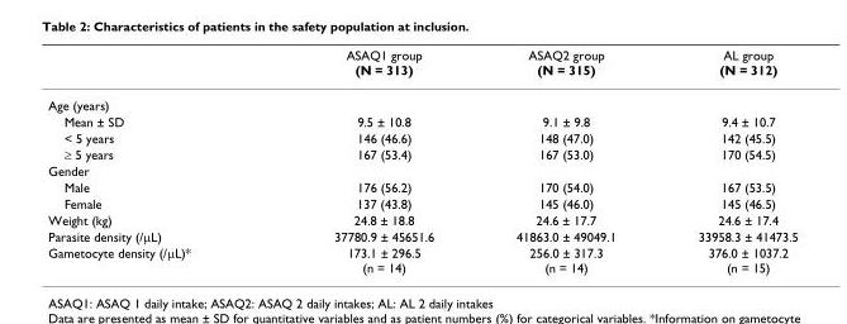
<table><thead><tr><td></td><td>ASAQ1 group (N = 313)</td><td>ASAQ2 group (N = 315)</td><td>AL group (N = 312)</td></tr></thead><tbody><tr><td colspan="4">Age (years)</td></tr><tr><td>Mean ± SD</td><td>9.5 ± 10.8</td><td>9.1 ± 9.8</td><td>9.4 ± 10.7</td></tr><tr><td>&lt; 5 years</td><td>146 (46.6)</td><td>148 (47.0)</td><td>142 (45.5)</td></tr><tr><td>≥ 5 years</td><td>167 (53.4)</td><td>167 (53.0)</td><td>170 (54.5)</td></tr><tr><td colspan="4">Gender</td></tr><tr><td>Male</td><td>176 (56.2)</td><td>170 (54.0)</td><td>167 (53.5)</td></tr><tr><td>Female</td><td>137 (43.8)</td><td>145 (46.0)</td><td>145 (46.5)</td></tr><tr><td>Weight (kg)</td><td>24.8 ± 18.8</td><td>24.6 ± 17.7</td><td>24.6 ± 17.4</td></tr><tr><td>Parasite density (/μL)</td><td>37780.9 ± 45651.6</td><td>41863.0 ± 49049.1</td><td>33958.3 ± 41473.5</td></tr><tr><td>Gametocyte density (/μL)*</td><td>173.1 ± 296.5 (n = 14)</td><td>256.0 ± 317.3 (n = 14)</td><td>376.0 ± 1037.2 (n = 15)</td></tr></tbody></table>